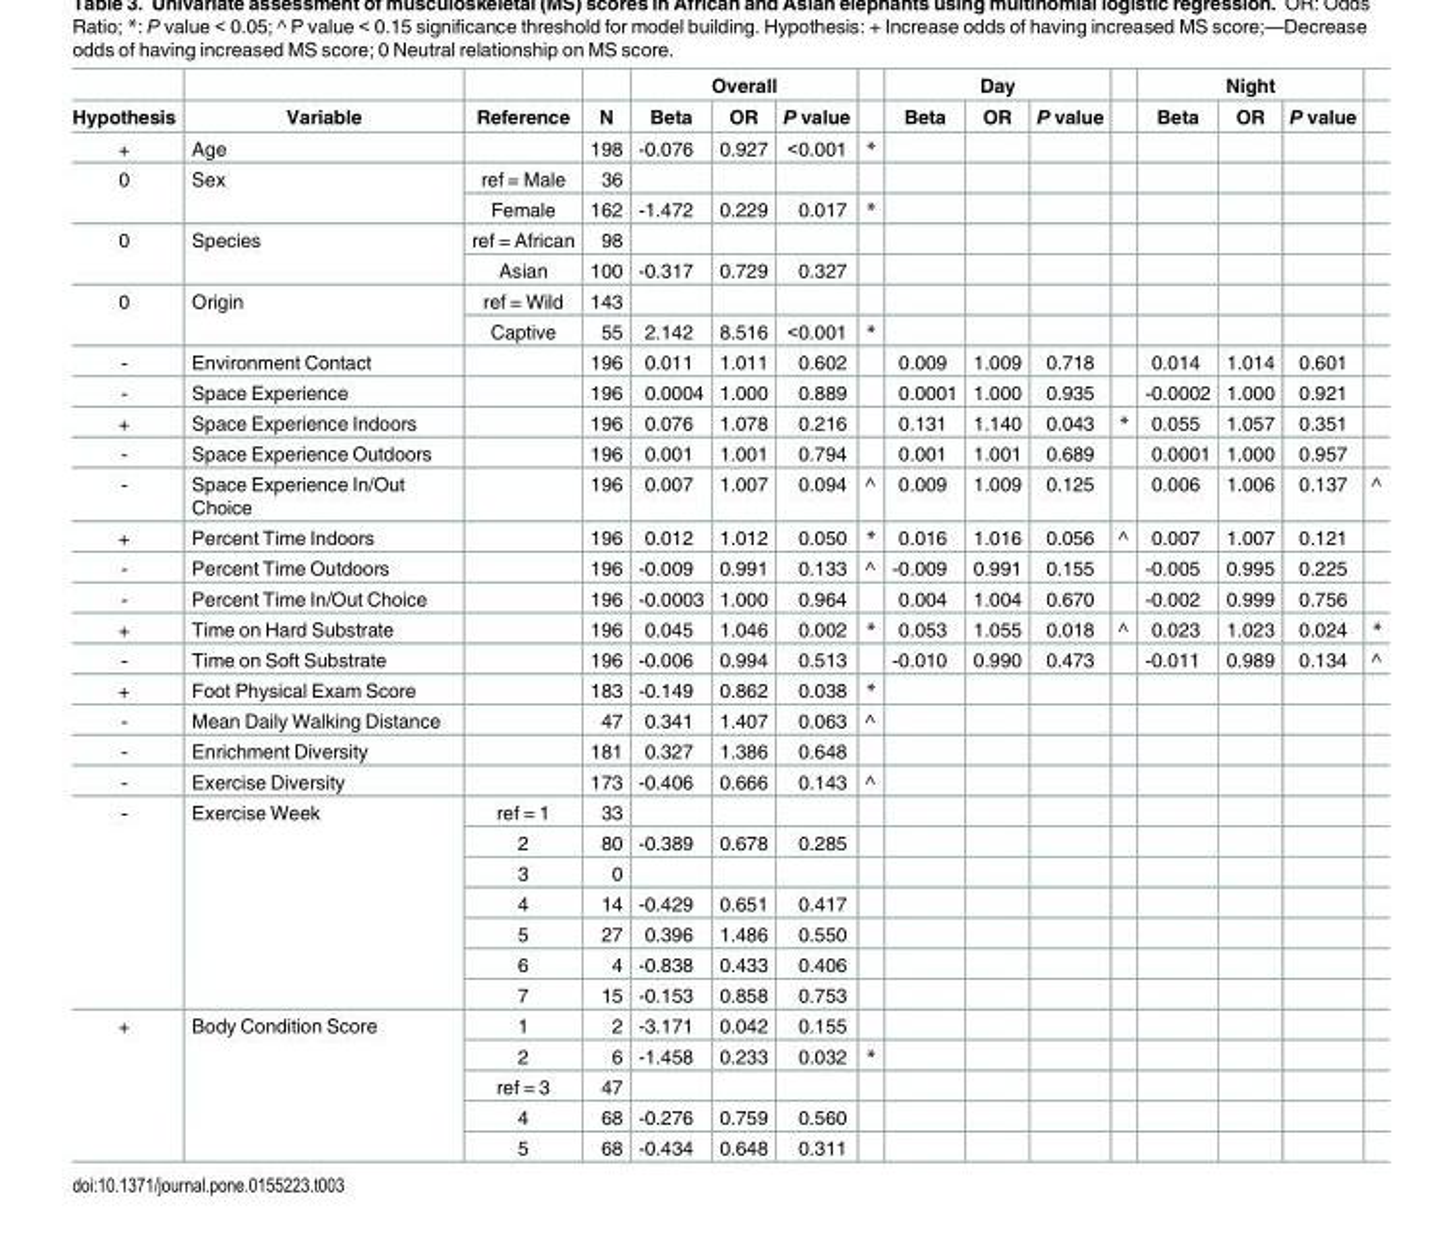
<table><thead><tr><td rowspan="2">Hypothesis</td><td rowspan="2">Variable</td><td rowspan="2">Reference</td><td rowspan="2">N</td><td colspan="3">Overall</td><td rowspan="2"></td><td colspan="3">Day</td><td rowspan="2"></td><td colspan="3">Night</td><td rowspan="2"></td></tr><tr><td>Beta</td><td>OR</td><td>P value</td><td>Beta</td><td>OR</td><td>P value</td><td>Beta</td><td>OR</td><td>P value</td></tr></thead><tbody><tr><td>+</td><td>Age</td><td></td><td>198</td><td>-0.076</td><td>0.927</td><td>&lt;0.001</td><td>*</td><td></td><td></td><td></td><td></td><td></td><td></td><td></td><td></td></tr><tr><td rowspan="2">0</td><td rowspan="2">Sex</td><td>ref = Male</td><td>36</td><td></td><td></td><td></td><td></td><td></td><td></td><td></td><td></td><td></td><td></td><td></td><td></td></tr><tr><td>Female</td><td>162</td><td>-1.472</td><td>0.229</td><td>0.017</td><td>*</td><td></td><td></td><td></td><td></td><td></td><td></td><td></td><td></td></tr><tr><td rowspan="2">0</td><td rowspan="2">Species</td><td>ref = African</td><td>98</td><td></td><td></td><td></td><td></td><td></td><td></td><td></td><td></td><td></td><td></td><td></td><td></td></tr><tr><td>Asian</td><td>100</td><td>-0.317</td><td>0.729</td><td>0.327</td><td></td><td></td><td></td><td></td><td></td><td></td><td></td><td></td><td></td></tr><tr><td rowspan="2">0</td><td rowspan="2">Origin</td><td>ref = Wild</td><td>143</td><td></td><td></td><td></td><td></td><td></td><td></td><td></td><td></td><td></td><td></td><td></td><td></td></tr><tr><td>Captive</td><td>55</td><td>2.142</td><td>8.516</td><td>&lt;0.001</td><td>*</td><td></td><td></td><td></td><td></td><td></td><td></td><td></td><td></td></tr><tr><td>-</td><td>Environment Contact</td><td></td><td>196</td><td>0.011</td><td>1.011</td><td>0.602</td><td></td><td>0.009</td><td>1.009</td><td>0.718</td><td></td><td>0.014</td><td>1.014</td><td>0.601</td><td></td></tr><tr><td>-</td><td>Space Experience</td><td></td><td>196</td><td>0.0004</td><td>1.000</td><td>0.889</td><td></td><td>0.0001</td><td>1.000</td><td>0.935</td><td></td><td>-0.0002</td><td>1.000</td><td>0.921</td><td></td></tr><tr><td>+</td><td>Space Experience Indoors</td><td></td><td>196</td><td>0.076</td><td>1.078</td><td>0.216</td><td></td><td>0.131</td><td>1.140</td><td>0.043</td><td>*</td><td>0.055</td><td>1.057</td><td>0.351</td><td></td></tr><tr><td>-</td><td>Space Experience Outdoors</td><td></td><td>196</td><td>0.001</td><td>1.001</td><td>0.794</td><td></td><td>0.001</td><td>1.001</td><td>0.689</td><td></td><td>0.0001</td><td>1.000</td><td>0.957</td><td></td></tr><tr><td>-</td><td>Space Experience In/Out Choice</td><td></td><td>196</td><td>0.007</td><td>1.007</td><td>0.094</td><td>^</td><td>0.009</td><td>1.009</td><td>0.125</td><td></td><td>0.006</td><td>1.006</td><td>0.137</td><td>^</td></tr><tr><td>+</td><td>Percent Time Indoors</td><td></td><td>196</td><td>0.012</td><td>1.012</td><td>0.050</td><td>*</td><td>0.016</td><td>1.016</td><td>0.056</td><td>^</td><td>0.007</td><td>1.007</td><td>0.121</td><td></td></tr><tr><td>-</td><td>Percent Time Outdoors</td><td></td><td>196</td><td>-0.009</td><td>0.991</td><td>0.133</td><td>^</td><td>-0.009</td><td>0.991</td><td>0.155</td><td></td><td>-0.005</td><td>0.995</td><td>0.225</td><td></td></tr><tr><td>-</td><td>Percent Time In/Out Choice</td><td></td><td>196</td><td>-0.0003</td><td>1.000</td><td>0.964</td><td></td><td>0.004</td><td>1.004</td><td>0.670</td><td></td><td>-0.002</td><td>0.999</td><td>0.756</td><td></td></tr><tr><td>+</td><td>Time on Hard Substrate</td><td></td><td>196</td><td>0.045</td><td>1.046</td><td>0.002</td><td>*</td><td>0.053</td><td>1.055</td><td>0.018</td><td>^</td><td>0.023</td><td>1.023</td><td>0.024</td><td>*</td></tr><tr><td>-</td><td>Time on Soft Substrate</td><td></td><td>196</td><td>-0.006</td><td>0.994</td><td>0.513</td><td></td><td>-0.010</td><td>0.990</td><td>0.473</td><td></td><td>-0.011</td><td>0.989</td><td>0.134</td><td>^</td></tr><tr><td>+</td><td>Foot Physical Exam Score</td><td></td><td>183</td><td>-0.149</td><td>0.862</td><td>0.038</td><td>*</td><td></td><td></td><td></td><td></td><td></td><td></td><td></td><td></td></tr><tr><td>-</td><td>Mean Daily Walking Distance</td><td></td><td>47</td><td>0.341</td><td>1.407</td><td>0.063</td><td>^</td><td></td><td></td><td></td><td></td><td></td><td></td><td></td><td></td></tr><tr><td>-</td><td>Enrichment Diversity</td><td></td><td>181</td><td>0.327</td><td>1.386</td><td>0.648</td><td></td><td></td><td></td><td></td><td></td><td></td><td></td><td></td><td></td></tr><tr><td>-</td><td>Exercise Diversity</td><td></td><td>173</td><td>-0.406</td><td>0.666</td><td>0.143</td><td>^</td><td></td><td></td><td></td><td></td><td></td><td></td><td></td><td></td></tr><tr><td rowspan="7">-</td><td rowspan="7">Exercise Week</td><td>ref = 1</td><td>33</td><td></td><td></td><td></td><td></td><td></td><td></td><td></td><td></td><td></td><td></td><td></td><td></td></tr><tr><td>2</td><td>80</td><td>-0.389</td><td>0.678</td><td>0.285</td><td></td><td></td><td></td><td></td><td></td><td></td><td></td><td></td><td></td></tr><tr><td>3</td><td>0</td><td></td><td></td><td></td><td></td><td></td><td></td><td></td><td></td><td></td><td></td><td></td><td></td></tr><tr><td>4</td><td>14</td><td>-0.429</td><td>0.651</td><td>0.417</td><td></td><td></td><td></td><td></td><td></td><td></td><td></td><td></td><td></td></tr><tr><td>5</td><td>27</td><td>0.396</td><td>1.486</td><td>0.550</td><td></td><td></td><td></td><td></td><td></td><td></td><td></td><td></td><td></td></tr><tr><td>6</td><td>4</td><td>-0.838</td><td>0.433</td><td>0.406</td><td></td><td></td><td></td><td></td><td></td><td></td><td></td><td></td><td></td></tr><tr><td>7</td><td>15</td><td>-0.153</td><td>0.858</td><td>0.753</td><td></td><td></td><td></td><td></td><td></td><td></td><td></td><td></td><td></td></tr><tr><td rowspan="5">+</td><td rowspan="5">Body Condition Score</td><td>1</td><td>2</td><td>-3.171</td><td>0.042</td><td>0.155</td><td></td><td></td><td></td><td></td><td></td><td></td><td></td><td></td><td></td></tr><tr><td>2</td><td>6</td><td>-1.458</td><td>0.233</td><td>0.032</td><td>*</td><td></td><td></td><td></td><td></td><td></td><td></td><td></td><td></td></tr><tr><td>ref = 3</td><td>47</td><td></td><td></td><td></td><td></td><td></td><td></td><td></td><td></td><td></td><td></td><td></td><td></td></tr><tr><td>4</td><td>68</td><td>-0.276</td><td>0.759</td><td>0.560</td><td></td><td></td><td></td><td></td><td></td><td></td><td></td><td></td><td></td></tr><tr><td>5</td><td>68</td><td>-0.434</td><td>0.648</td><td>0.311</td><td></td><td></td><td></td><td></td><td></td><td></td><td></td><td></td><td></td></tr></tbody></table>